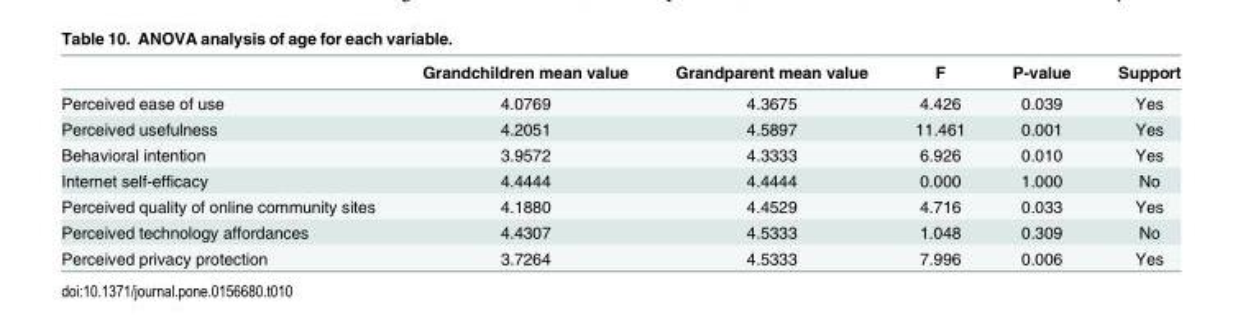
<table><thead><tr><td></td><td>Grandchildren mean value</td><td>Grandparent mean value</td><td>F</td><td>P-value</td><td>Support</td></tr></thead><tbody><tr><td>Perceived ease of use</td><td>4.0769</td><td>4.3675</td><td>4.426</td><td>0.039</td><td>Yes</td></tr><tr><td>Perceived usefulness</td><td>4.2051</td><td>4.5897</td><td>11.461</td><td>0.001</td><td>Yes</td></tr><tr><td>Behavioral intention</td><td>3.9572</td><td>4.3333</td><td>6.926</td><td>0.010</td><td>Yes</td></tr><tr><td>Internet self-efficacy</td><td>4.4444</td><td>4.4444</td><td>0.000</td><td>1.000</td><td>No</td></tr><tr><td>Perceived quality of online community sites</td><td>4.1880</td><td>4.4529</td><td>4.716</td><td>0.033</td><td>Yes</td></tr><tr><td>Perceived technology affordances</td><td>4.4307</td><td>4.5333</td><td>1.048</td><td>0.309</td><td>No</td></tr><tr><td>Perceived privacy protection</td><td>3.7264</td><td>4.5333</td><td>7.996</td><td>0.006</td><td>Yes</td></tr></tbody></table>